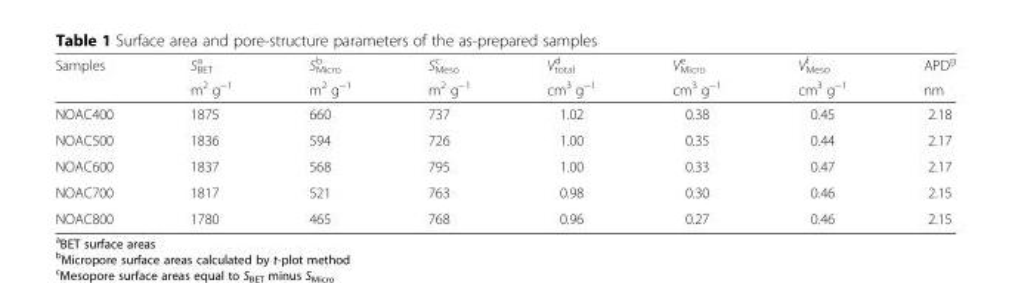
<table><thead><tr><td rowspan="2">Samples</td><td rowspan="2">S<sub>BET</sub> <sup>a</sup> m<sup>2</sup> g<sup>−1</sup></td><td rowspan="2">S<sub>Micro</sub> <sup>b</sup> m<sup>2</sup> g<sup>−1</sup></td><td rowspan="2">S<sub>Meso</sub> <sup>c</sup> m<sup>2</sup> g<sup>−1</sup></td><td rowspan="2">V<sub>total</sub> <sup>d</sup> cm<sup>3</sup> g<sup>−1</sup></td><td rowspan="2">V<sub>Micro</sub> <sup>e</sup> cm<sup>3</sup> g<sup>−1</sup></td><td rowspan="2">V<sub>Meso</sub> <sup>f</sup> cm<sup>3</sup> g<sup>−1</sup></td><td rowspan="2">APD<sup>g</sup> nm</td></tr><tr></tr></thead><tbody><tr><td>NOAC400</td><td>1875</td><td>660</td><td>737</td><td>1.02</td><td>0.38</td><td>0.45</td><td>2.18</td></tr><tr><td>NOAC500</td><td>1836</td><td>594</td><td>726</td><td>1.00</td><td>0.35</td><td>0.44</td><td>2.17</td></tr><tr><td>NOAC600</td><td>1837</td><td>568</td><td>795</td><td>1.00</td><td>0.33</td><td>0.47</td><td>2.17</td></tr><tr><td>NOAC700</td><td>1817</td><td>521</td><td>763</td><td>0.98</td><td>0.30</td><td>0.46</td><td>2.15</td></tr><tr><td>NOAC800</td><td>1780</td><td>465</td><td>768</td><td>0.96</td><td>0.27</td><td>0.46</td><td>2.15</td></tr></tbody></table>